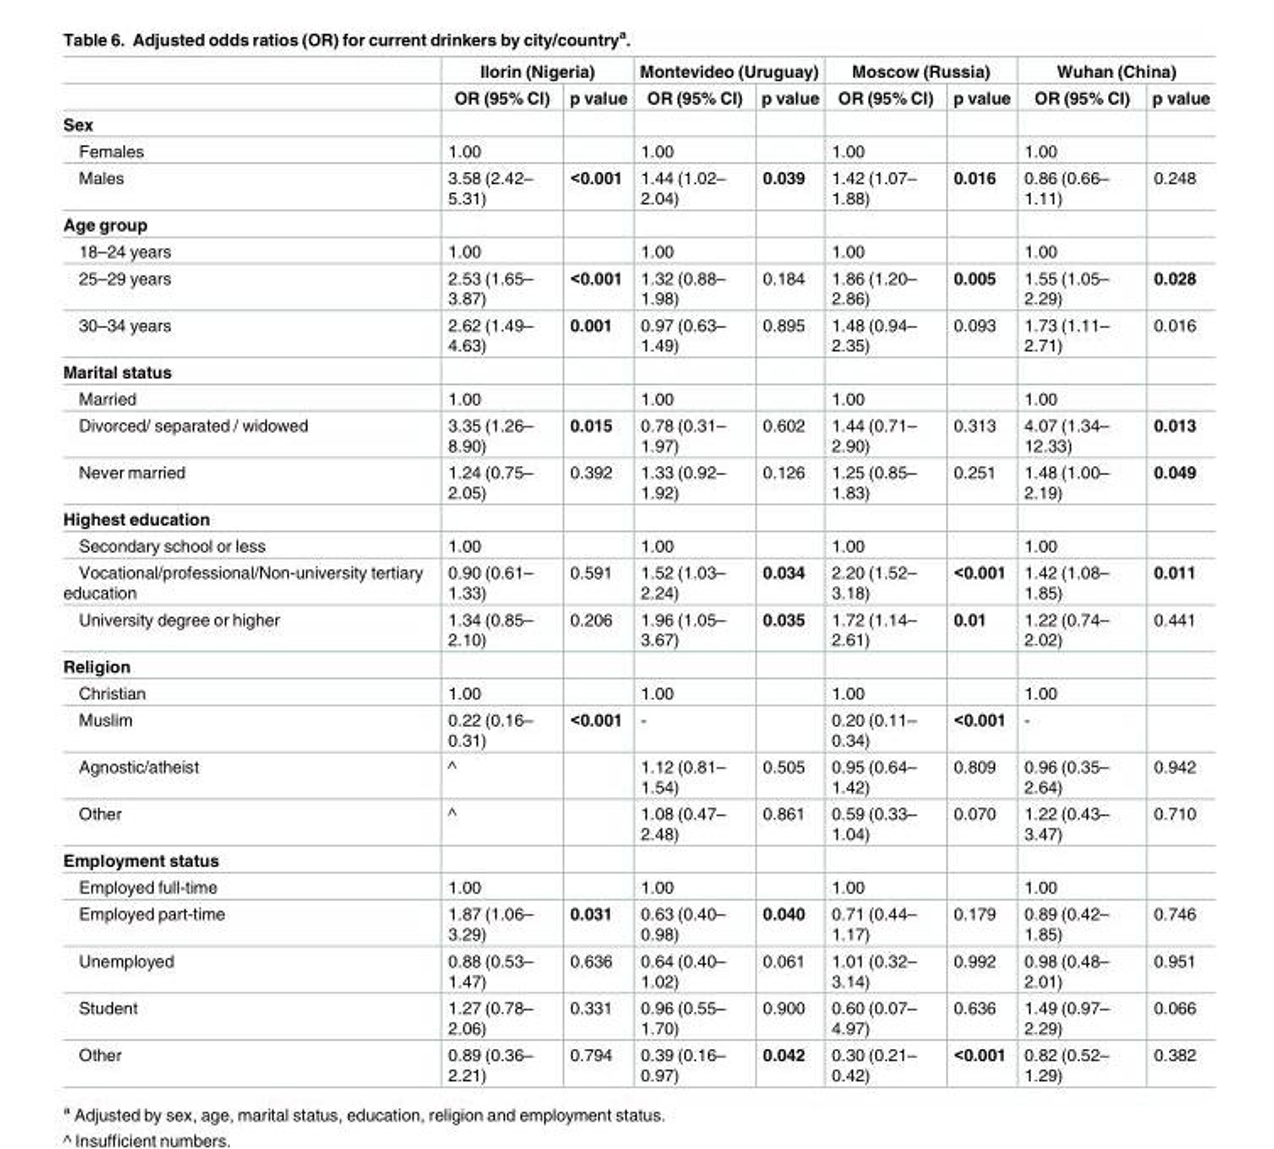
<table><thead><tr><td rowspan="2"></td><td colspan="2">Ilorin (Nigeria)</td><td colspan="2">Montevideo (Uruguay)</td><td colspan="2">Moscow (Russia)</td><td colspan="2">Wuhan (China)</td></tr><tr><td>OR (95% CI)</td><td>p value</td><td>OR (95% CI)</td><td>p value</td><td>OR (95% CI)</td><td>p value</td><td>OR (95% CI)</td><td>p value</td></tr></thead><tbody><tr><td colspan="9">Sex</td></tr><tr><td>Females</td><td>1.00</td><td></td><td>1.00</td><td></td><td>1.00</td><td></td><td>1.00</td><td></td></tr><tr><td>Males</td><td>3.58 (2.42– 5.31)</td><td>&lt;0.001</td><td>1.44 (1.02– 2.04)</td><td>0.039</td><td>1.42 (1.07– 1.88)</td><td>0.016</td><td>0.86 (0.66– 1.11)</td><td>0.248</td></tr><tr><td colspan="9">Age group</td></tr><tr><td>18–24 years</td><td>1.00</td><td></td><td>1.00</td><td></td><td>1.00</td><td></td><td>1.00</td><td></td></tr><tr><td>25–29 years</td><td>2.53 (1.65– 3.87)</td><td>&lt;0.001</td><td>1.32 (0.88– 1.98)</td><td>0.184</td><td>1.86 (1.20– 2.86)</td><td>0.005</td><td>1.55 (1.05– 2.29)</td><td>0.028</td></tr><tr><td>30–34 years</td><td>2.62 (1.49– 4.63)</td><td>0.001</td><td>0.97 (0.63– 1.49)</td><td>0.895</td><td>1.48 (0.94– 2.35)</td><td>0.093</td><td>1.73 (1.11– 2.71)</td><td>0.016</td></tr><tr><td colspan="9">Marital status</td></tr><tr><td>Married</td><td>1.00</td><td></td><td>1.00</td><td></td><td>1.00</td><td></td><td>1.00</td><td></td></tr><tr><td>Divorced/ separated / widowed</td><td>3.35 (1.26– 8.90)</td><td>0.015</td><td>0.78 (0.31– 1.97)</td><td>0.602</td><td>1.44 (0.71– 2.90)</td><td>0.313</td><td>4.07 (1.34– 12.33)</td><td>0.013</td></tr><tr><td>Never married</td><td>1.24 (0.75– 2.05)</td><td>0.392</td><td>1.33 (0.92– 1.92)</td><td>0.126</td><td>1.25 (0.85– 1.83)</td><td>0.251</td><td>1.48 (1.00– 2.19)</td><td>0.049</td></tr><tr><td colspan="9">Highest education</td></tr><tr><td>Secondary school or less</td><td>1.00</td><td></td><td>1.00</td><td></td><td>1.00</td><td></td><td>1.00</td><td></td></tr><tr><td>Vocational/professional/Non-university tertiary education</td><td>0.90 (0.61– 1.33)</td><td>0.591</td><td>1.52 (1.03– 2.24)</td><td>0.034</td><td>2.20 (1.52– 3.18)</td><td>&lt;0.001</td><td>1.42 (1.08– 1.85)</td><td>0.011</td></tr><tr><td>University degree or higher</td><td>1.34 (0.85– 2.10)</td><td>0.206</td><td>1.96 (1.05– 3.67)</td><td>0.035</td><td>1.72 (1.14– 2.61)</td><td>0.01</td><td>1.22 (0.74– 2.02)</td><td>0.441</td></tr><tr><td colspan="9">Religion</td></tr><tr><td>Christian</td><td>1.00</td><td></td><td>1.00</td><td></td><td>1.00</td><td></td><td>1.00</td><td></td></tr><tr><td>Muslim</td><td>0.22 (0.16– 0.31)</td><td>&lt;0.001</td><td>-</td><td></td><td>0.20 (0.11– 0.34)</td><td>&lt;0.001</td><td>-</td><td></td></tr><tr><td>Agnostic/atheist</td><td>^</td><td></td><td>1.12 (0.81– 1.54)</td><td>0.505</td><td>0.95 (0.64– 1.42)</td><td>0.809</td><td>0.96 (0.35– 2.64)</td><td>0.942</td></tr><tr><td>Other</td><td>^</td><td></td><td>1.08 (0.47– 2.48)</td><td>0.861</td><td>0.59 (0.33– 1.04)</td><td>0.070</td><td>1.22 (0.43– 3.47)</td><td>0.710</td></tr><tr><td colspan="9">Employment status</td></tr><tr><td>Employed full-time</td><td>1.00</td><td></td><td>1.00</td><td></td><td>1.00</td><td></td><td>1.00</td><td></td></tr><tr><td>Employed part-time</td><td>1.87 (1.06– 3.29)</td><td>0.031</td><td>0.63 (0.40– 0.98)</td><td>0.040</td><td>0.71 (0.44– 1.17)</td><td>0.179</td><td>0.89 (0.42– 1.85)</td><td>0.746</td></tr><tr><td>Unemployed</td><td>0.88 (0.53– 1.47)</td><td>0.636</td><td>0.64 (0.40– 1.02)</td><td>0.061</td><td>1.01 (0.32– 3.14)</td><td>0.992</td><td>0.98 (0.48– 2.01)</td><td>0.951</td></tr><tr><td>Student</td><td>1.27 (0.78– 2.06)</td><td>0.331</td><td>0.96 (0.55– 1.70)</td><td>0.900</td><td>0.60 (0.07– 4.97)</td><td>0.636</td><td>1.49 (0.97– 2.29)</td><td>0.066</td></tr><tr><td>Other</td><td>0.89 (0.36– 2.21)</td><td>0.794</td><td>0.39 (0.16– 0.97)</td><td>0.042</td><td>0.30 (0.21– 0.42)</td><td>&lt;0.001</td><td>0.82 (0.52– 1.29)</td><td>0.382</td></tr></tbody></table>